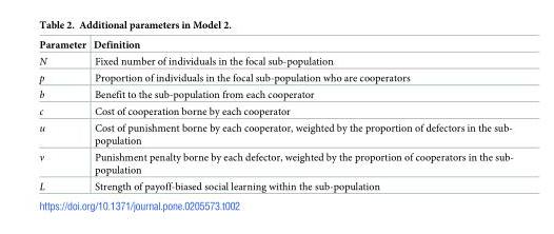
<table><thead><tr><td>Parameter</td><td>Definition</td></tr></thead><tbody><tr><td>N</td><td>Fixed number of individuals in the focal sub-population</td></tr><tr><td>p</td><td>Proportion of individuals in the focal sub-population who are cooperators</td></tr><tr><td>b</td><td>Benefit to the sub-population from each cooperator</td></tr><tr><td>c</td><td>Cost of cooperation borne by each cooperator</td></tr><tr><td>u</td><td>Cost of punishment borne by each cooperator, weighted by the proportion of defectors in the sub- population</td></tr><tr><td>v</td><td>Punishment penalty borne by each defector, weighted by the proportion of cooperators in the sub- population</td></tr><tr><td>L</td><td>Strength of payoff-biased social learning within the sub-population</td></tr></tbody></table>